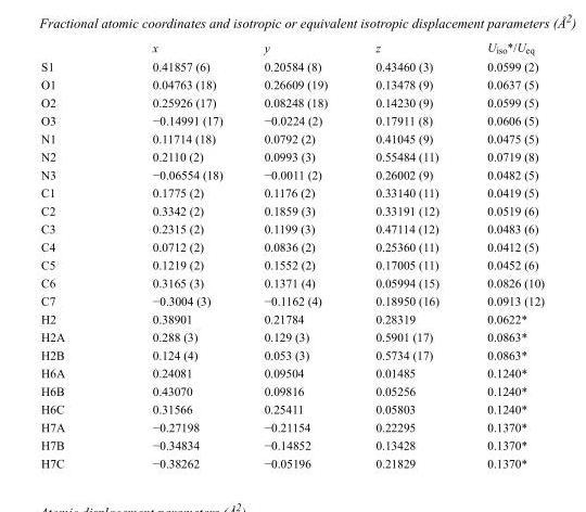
<table><thead><tr><td></td><td>x</td><td>y</td><td>z</td><td>U<sub>iso</sub>*/U<sub>eq</sub></td></tr></thead><tbody><tr><td>S1</td><td>0.41857 (6)</td><td>0.20584 (8)</td><td>0.43460 (3)</td><td>0.0599 (2)</td></tr><tr><td>O1</td><td>0.04763 (18)</td><td>0.26609 (19)</td><td>0.13478 (9)</td><td>0.0637 (5)</td></tr><tr><td>O2</td><td>0.25926 (17)</td><td>0.08248 (18)</td><td>0.14230 (9)</td><td>0.0599 (5)</td></tr><tr><td>O3</td><td>−0.14991 (17)</td><td>−0.0224 (2)</td><td>0.17911 (8)</td><td>0.0606 (5)</td></tr><tr><td>N1</td><td>0.11714 (18)</td><td>0.0792 (2)</td><td>0.41045 (9)</td><td>0.0475 (5)</td></tr><tr><td>N2</td><td>0.2110 (2)</td><td>0.0993 (3)</td><td>0.55484 (11)</td><td>0.0719 (8)</td></tr><tr><td>N3</td><td>−0.06554 (18)</td><td>−0.0011 (2)</td><td>0.26002 (9)</td><td>0.0482 (5)</td></tr><tr><td>C1</td><td>0.1775 (2)</td><td>0.1176 (2)</td><td>0.33140 (11)</td><td>0.0419 (5)</td></tr><tr><td>C2</td><td>0.3342 (2)</td><td>0.1859 (3)</td><td>0.33191 (12)</td><td>0.0519 (6)</td></tr><tr><td>C3</td><td>0.2315 (2)</td><td>0.1199 (3)</td><td>0.47114 (12)</td><td>0.0483 (6)</td></tr><tr><td>C4</td><td>0.0712 (2)</td><td>0.0836 (2)</td><td>0.25360 (11)</td><td>0.0412 (5)</td></tr><tr><td>C5</td><td>0.1219 (2)</td><td>0.1552 (2)</td><td>0.17005 (11)</td><td>0.0452 (6)</td></tr><tr><td>C6</td><td>0.3165 (3)</td><td>0.1371 (4)</td><td>0.05994 (15)</td><td>0.0826 (10)</td></tr><tr><td>C7</td><td>−0.3004 (3)</td><td>−0.1162 (4)</td><td>0.18950 (16)</td><td>0.0913 (12)</td></tr><tr><td>H2</td><td>0.38901</td><td>0.21784</td><td>0.28319</td><td>0.0622*</td></tr><tr><td>H2A</td><td>0.288 (3)</td><td>0.129 (3)</td><td>0.5901 (17)</td><td>0.0863*</td></tr><tr><td>H2B</td><td>0.124 (4)</td><td>0.053 (3)</td><td>0.5734 (17)</td><td>0.0863*</td></tr><tr><td>H6A</td><td>0.24081</td><td>0.09504</td><td>0.01485</td><td>0.1240*</td></tr><tr><td>H6B</td><td>0.43070</td><td>0.09816</td><td>0.05256</td><td>0.1240*</td></tr><tr><td>H6C</td><td>0.31566</td><td>0.25411</td><td>0.05803</td><td>0.1240*</td></tr><tr><td>H7A</td><td>−0.27198</td><td>−0.21154</td><td>0.22295</td><td>0.1370*</td></tr><tr><td>H7B</td><td>−0.34834</td><td>−0.14852</td><td>0.13428</td><td>0.1370*</td></tr><tr><td>H7C</td><td>−0.38262</td><td>−0.05196</td><td>0.21829</td><td>0.1370*</td></tr></tbody></table>